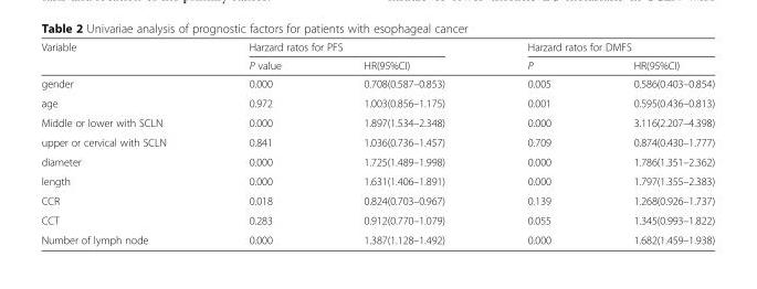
<table><thead><tr><td rowspan="2">Variable</td><td colspan="2">Harzard ratos for PFS</td><td colspan="2">Harzard ratos for DMFS</td></tr><tr><td>P value</td><td>HR(95%CI)</td><td>P</td><td>HR(95%CI)</td></tr></thead><tbody><tr><td>gender</td><td>0.000</td><td>0.708(0.587–0.853)</td><td>0.005</td><td>0.586(0.403–0.854)</td></tr><tr><td>age</td><td>0.972</td><td>1.003(0.856–1.175)</td><td>0.001</td><td>0.595(0.436–0.813)</td></tr><tr><td>Middle or lower with SCLN</td><td>0.000</td><td>1.897(1.534–2.348)</td><td>0.000</td><td>3.116(2.207–4.398)</td></tr><tr><td>upper or cervical with SCLN</td><td>0.841</td><td>1.036(0.736–1.457)</td><td>0.709</td><td>0.874(0.430–1.777)</td></tr><tr><td>diameter</td><td>0.000</td><td>1.725(1.489–1.998)</td><td>0.000</td><td>1.786(1.351–2.362)</td></tr><tr><td>length</td><td>0.000</td><td>1.631(1.406–1.891)</td><td>0.000</td><td>1.797(1.355–2.383)</td></tr><tr><td>CCR</td><td>0.018</td><td>0.824(0.703–0.967)</td><td>0.139</td><td>1.268(0.926–1.737)</td></tr><tr><td>CCT</td><td>0.283</td><td>0.912(0.770–1.079)</td><td>0.055</td><td>1.345(0.993–1.822)</td></tr><tr><td>Number of lymph node</td><td>0.000</td><td>1.387(1.128–1.492)</td><td>0.000</td><td>1.682(1.459–1.938)</td></tr></tbody></table>